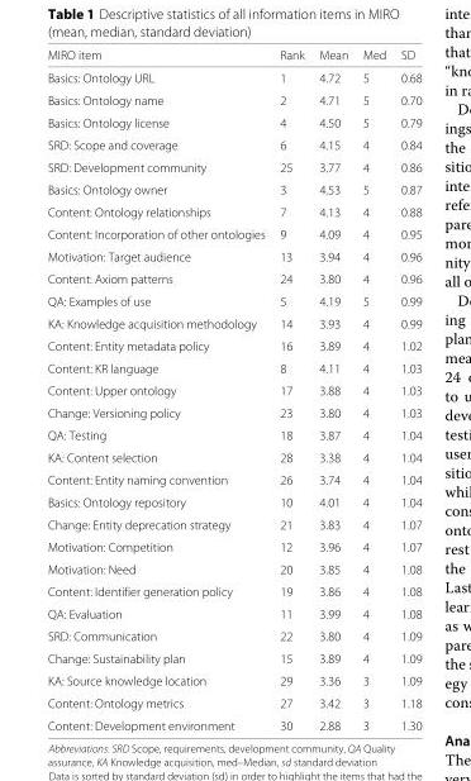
<table><thead><tr><td>MIRO item</td><td>Rank</td><td>Mean</td><td>Med</td><td>SD</td></tr></thead><tbody><tr><td>Basics: Ontology URL</td><td>1</td><td>4.72</td><td>5</td><td>0.68</td></tr><tr><td>Basics: Ontology name</td><td>2</td><td>4.71</td><td>5</td><td>0.70</td></tr><tr><td>Basics: Ontology license</td><td>4</td><td>4.50</td><td>5</td><td>0.79</td></tr><tr><td>SRD: Scope and coverage</td><td>6</td><td>4.15</td><td>4</td><td>0.84</td></tr><tr><td>SRD: Development community</td><td>25</td><td>3.77</td><td>4</td><td>0.86</td></tr><tr><td>Basics: Ontology owner</td><td>3</td><td>4.53</td><td>5</td><td>0.87</td></tr><tr><td>Content: Ontology relationships</td><td>7</td><td>4.13</td><td>4</td><td>0.88</td></tr><tr><td>Content: Incorporation of other ontologies</td><td>9</td><td>4.09</td><td>4</td><td>0.95</td></tr><tr><td>Motivation: Target audience</td><td>13</td><td>3.94</td><td>4</td><td>0.96</td></tr><tr><td>Content: Axiom patterns</td><td>24</td><td>3.80</td><td>4</td><td>0.96</td></tr><tr><td>QA: Examples of use</td><td>5</td><td>4.19</td><td>5</td><td>0.99</td></tr><tr><td>KA: Knowledge acquisition methodology</td><td>14</td><td>3.93</td><td>4</td><td>0.99</td></tr><tr><td>Content: Entity metadata policy</td><td>16</td><td>3.89</td><td>4</td><td>1.02</td></tr><tr><td>Content: KR language</td><td>8</td><td>4.11</td><td>4</td><td>1.03</td></tr><tr><td>Content: Upper ontology</td><td>17</td><td>3.88</td><td>4</td><td>1.03</td></tr><tr><td>Change: Versioning policy</td><td>23</td><td>3.80</td><td>4</td><td>1.03</td></tr><tr><td>QA: Testing</td><td>18</td><td>3.87</td><td>4</td><td>1.04</td></tr><tr><td>KA: Content selection</td><td>28</td><td>3.38</td><td>4</td><td>1.04</td></tr><tr><td>Content: Entity naming convention</td><td>26</td><td>3.74</td><td>4</td><td>1.04</td></tr><tr><td>Basics: Ontology repository</td><td>10</td><td>4.01</td><td>4</td><td>1.04</td></tr><tr><td>Change: Entity deprecation strategy</td><td>21</td><td>3.83</td><td>4</td><td>1.07</td></tr><tr><td>Motivation: Competition</td><td>12</td><td>3.96</td><td>4</td><td>1.07</td></tr><tr><td>Motivation: Need</td><td>20</td><td>3.85</td><td>4</td><td>1.08</td></tr><tr><td>Content: Identifier generation policy</td><td>19</td><td>3.86</td><td>4</td><td>1.08</td></tr><tr><td>QA: Evaluation</td><td>11</td><td>3.99</td><td>4</td><td>1.08</td></tr><tr><td>SRD: Communication</td><td>22</td><td>3.80</td><td>4</td><td>1.09</td></tr><tr><td>Change: Sustainability plan</td><td>15</td><td>3.89</td><td>4</td><td>1.09</td></tr><tr><td>KA: Source knowledge location</td><td>29</td><td>3.36</td><td>3</td><td>1.09</td></tr><tr><td>Content: Ontology metrics</td><td>27</td><td>3.42</td><td>3</td><td>1.18</td></tr><tr><td>Content: Development environment</td><td>30</td><td>2.88</td><td>3</td><td>1.30</td></tr></tbody></table>